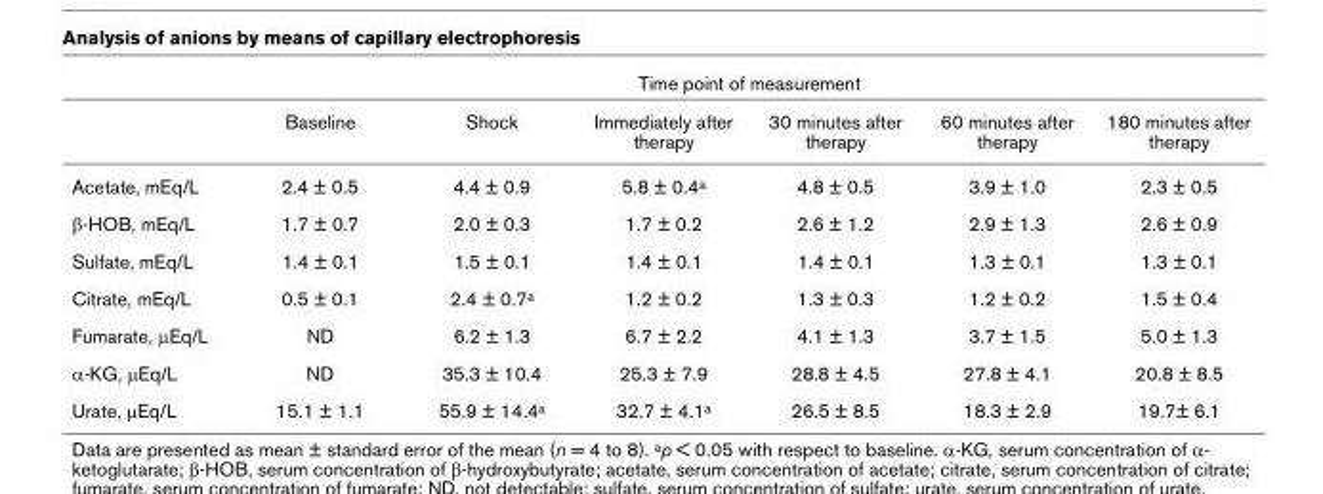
<table><thead><tr><td rowspan="2"></td><td colspan="6">Time point of measurement</td></tr><tr><td>Baseline</td><td>Shock</td><td>Immediately after therapy</td><td>30 minutes after therapy</td><td>60 minutes after therapy</td><td>180 minutes after therapy</td></tr></thead><tbody><tr><td>Acetate, mEq/L</td><td>2.4 ± 0.5</td><td>4.4 ± 0.9</td><td>5.8 ± 0.4<sup>a</sup></td><td>4.8 ± 0.5</td><td>3.9 ± 1.0</td><td>2.3 ± 0.5</td></tr><tr><td>β-HOB, mEq/L</td><td>1.7 ± 0.7</td><td>2.0 ± 0.3</td><td>1.7 ± 0.2</td><td>2.6 ± 1.2</td><td>2.9 ± 1.3</td><td>2.6 ± 0.9</td></tr><tr><td>Sulfate, mEq/L</td><td>1.4 ± 0.1</td><td>1.5 ± 0.1</td><td>1.4 ± 0.1</td><td>1.4 ± 0.1</td><td>1.3 ± 0.1</td><td>1.3 ± 0.1</td></tr><tr><td>Citrate, mEq/L</td><td>0.5 ± 0.1</td><td>2.4 ± 0.7<sup>a</sup></td><td>1.2 ± 0.2</td><td>1.3 ± 0.3</td><td>1.2 ± 0.2</td><td>1.5 ± 0.4</td></tr><tr><td>Fumarate, μEq/L</td><td>ND</td><td>6.2 ± 1.3</td><td>6.7 ± 2.2</td><td>4.1 ± 1.3</td><td>3.7 ± 1.5</td><td>5.0 ± 1.3</td></tr><tr><td>α-KG, μEq/L</td><td>ND</td><td>35.3 ± 10.4</td><td>25.3 ± 7.9</td><td>28.8 ± 4.5</td><td>27.8 ± 4.1</td><td>20.8 ± 8.5</td></tr><tr><td>Urate, μEq/L</td><td>15.1 ± 1.1</td><td>55.9 ± 14.4<sup>a</sup></td><td>32.7 ± 4.1<sup>a</sup></td><td>26.5 ± 8.5</td><td>18.3 ± 2.9</td><td>19.7± 6.1</td></tr></tbody></table>